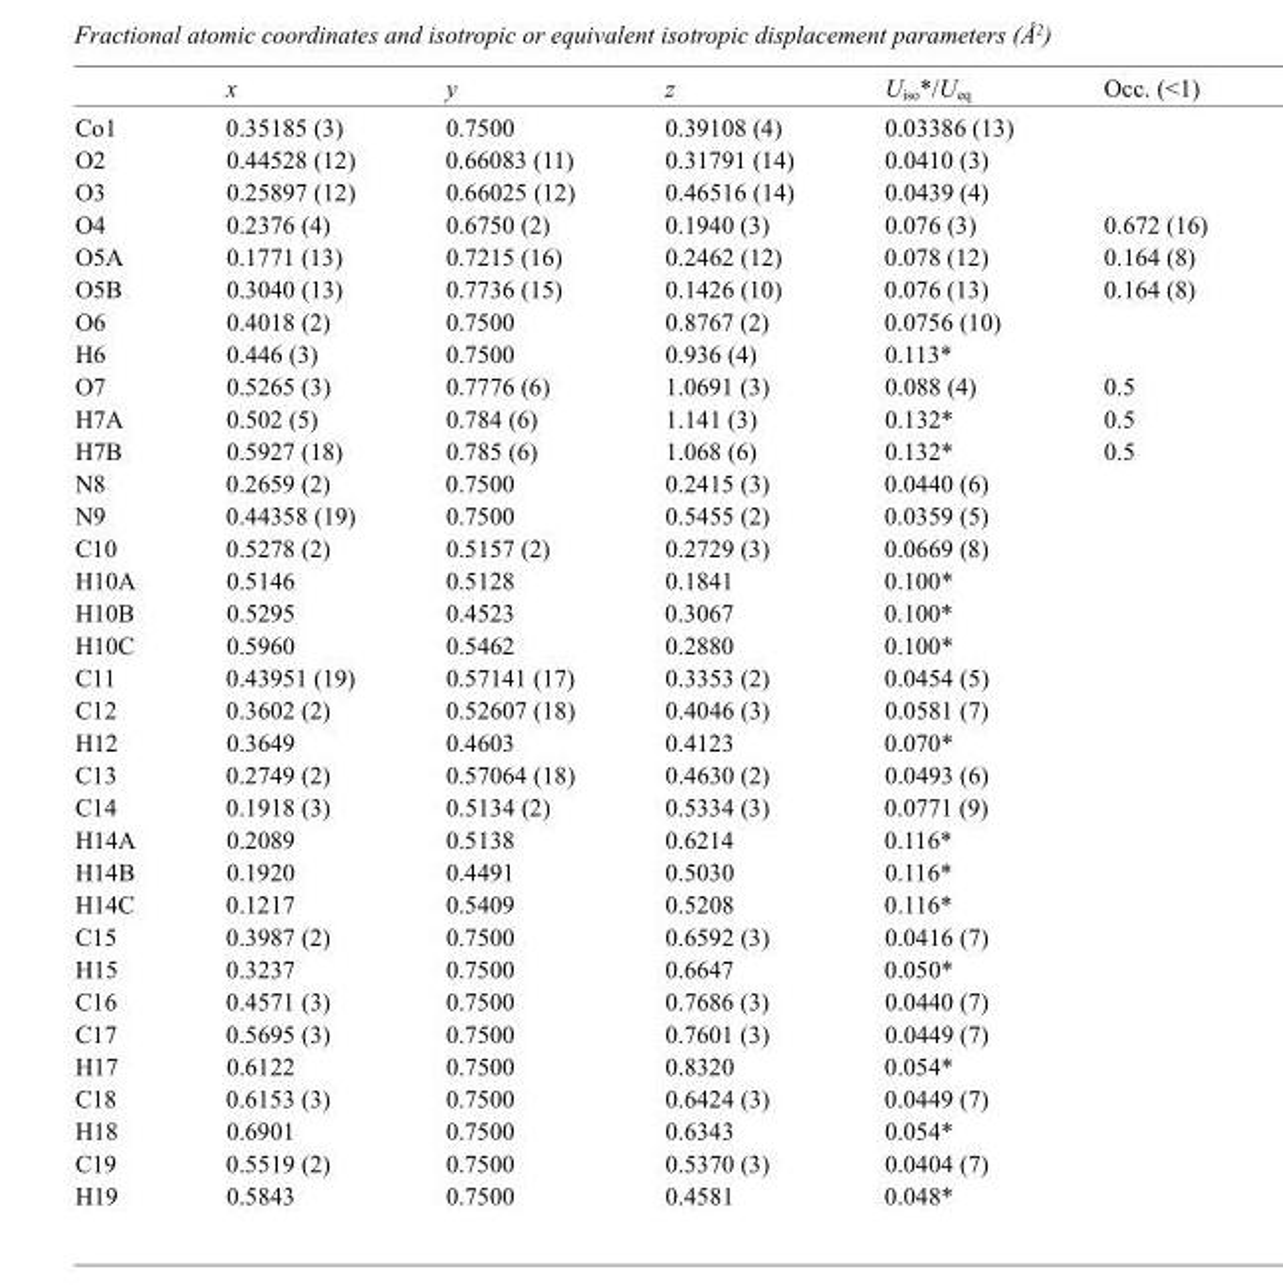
<table><thead><tr><td></td><td>x</td><td>y</td><td>z</td><td>U<sub>iso</sub>*/U<sub>eq</sub></td><td>Occ. (&lt;1)</td></tr></thead><tbody><tr><td>Co1</td><td>0.35185 (3)</td><td>0.7500</td><td>0.39108 (4)</td><td>0.03386 (13)</td><td></td></tr><tr><td>O2</td><td>0.44528 (12)</td><td>0.66083 (11)</td><td>0.31791 (14)</td><td>0.0410 (3)</td><td></td></tr><tr><td>O3</td><td>0.25897 (12)</td><td>0.66025 (12)</td><td>0.46516 (14)</td><td>0.0439 (4)</td><td></td></tr><tr><td>O4</td><td>0.2376 (4)</td><td>0.6750 (2)</td><td>0.1940 (3)</td><td>0.076 (3)</td><td>0.672 (16)</td></tr><tr><td>O5A</td><td>0.1771 (13)</td><td>0.7215 (16)</td><td>0.2462 (12)</td><td>0.078 (12)</td><td>0.164 (8)</td></tr><tr><td>O5B</td><td>0.3040 (13)</td><td>0.7736 (15)</td><td>0.1426 (10)</td><td>0.076 (13)</td><td>0.164 (8)</td></tr><tr><td>O6</td><td>0.4018 (2)</td><td>0.7500</td><td>0.8767 (2)</td><td>0.0756 (10)</td><td></td></tr><tr><td>H6</td><td>0.446 (3)</td><td>0.7500</td><td>0.936 (4)</td><td>0.113*</td><td></td></tr><tr><td>O7</td><td>0.5265 (3)</td><td>0.7776 (6)</td><td>1.0691 (3)</td><td>0.088 (4)</td><td>0.5</td></tr><tr><td>H7A</td><td>0.502 (5)</td><td>0.784 (6)</td><td>1.141 (3)</td><td>0.132*</td><td>0.5</td></tr><tr><td>H7B</td><td>0.5927 (18)</td><td>0.785 (6)</td><td>1.068 (6)</td><td>0.132*</td><td>0.5</td></tr><tr><td>N8</td><td>0.2659 (2)</td><td>0.7500</td><td>0.2415 (3)</td><td>0.0440 (6)</td><td></td></tr><tr><td>N9</td><td>0.44358 (19)</td><td>0.7500</td><td>0.5455 (2)</td><td>0.0359 (5)</td><td></td></tr><tr><td>C10</td><td>0.5278 (2)</td><td>0.5157 (2)</td><td>0.2729 (3)</td><td>0.0669 (8)</td><td></td></tr><tr><td>H10A</td><td>0.5146</td><td>0.5128</td><td>0.1841</td><td>0.100*</td><td></td></tr><tr><td>H10B</td><td>0.5295</td><td>0.4523</td><td>0.3067</td><td>0.100*</td><td></td></tr><tr><td>H10C</td><td>0.5960</td><td>0.5462</td><td>0.2880</td><td>0.100*</td><td></td></tr><tr><td>C11</td><td>0.43951 (19)</td><td>0.57141 (17)</td><td>0.3353 (2)</td><td>0.0454 (5)</td><td></td></tr><tr><td>C12</td><td>0.3602 (2)</td><td>0.52607 (18)</td><td>0.4046 (3)</td><td>0.0581 (7)</td><td></td></tr><tr><td>H12</td><td>0.3649</td><td>0.4603</td><td>0.4123</td><td>0.070*</td><td></td></tr><tr><td>C13</td><td>0.2749 (2)</td><td>0.57064 (18)</td><td>0.4630 (2)</td><td>0.0493 (6)</td><td></td></tr><tr><td>C14</td><td>0.1918 (3)</td><td>0.5134 (2)</td><td>0.5334 (3)</td><td>0.0771 (9)</td><td></td></tr><tr><td>H14A</td><td>0.2089</td><td>0.5138</td><td>0.6214</td><td>0.116*</td><td></td></tr><tr><td>H14B</td><td>0.1920</td><td>0.4491</td><td>0.5030</td><td>0.116*</td><td></td></tr><tr><td>H14C</td><td>0.1217</td><td>0.5409</td><td>0.5208</td><td>0.116*</td><td></td></tr><tr><td>C15</td><td>0.3987 (2)</td><td>0.7500</td><td>0.6592 (3)</td><td>0.0416 (7)</td><td></td></tr><tr><td>H15</td><td>0.3237</td><td>0.7500</td><td>0.6647</td><td>0.050*</td><td></td></tr><tr><td>C16</td><td>0.4571 (3)</td><td>0.7500</td><td>0.7686 (3)</td><td>0.0440 (7)</td><td></td></tr><tr><td>C17</td><td>0.5695 (3)</td><td>0.7500</td><td>0.7601 (3)</td><td>0.0449 (7)</td><td></td></tr><tr><td>H17</td><td>0.6122</td><td>0.7500</td><td>0.8320</td><td>0.054*</td><td></td></tr><tr><td>C18</td><td>0.6153 (3)</td><td>0.7500</td><td>0.6424 (3)</td><td>0.0449 (7)</td><td></td></tr><tr><td>H18</td><td>0.6901</td><td>0.7500</td><td>0.6343</td><td>0.054*</td><td></td></tr><tr><td>C19</td><td>0.5519 (2)</td><td>0.7500</td><td>0.5370 (3)</td><td>0.0404 (7)</td><td></td></tr><tr><td>H19</td><td>0.5843</td><td>0.7500</td><td>0.4581</td><td>0.048*</td><td></td></tr></tbody></table>